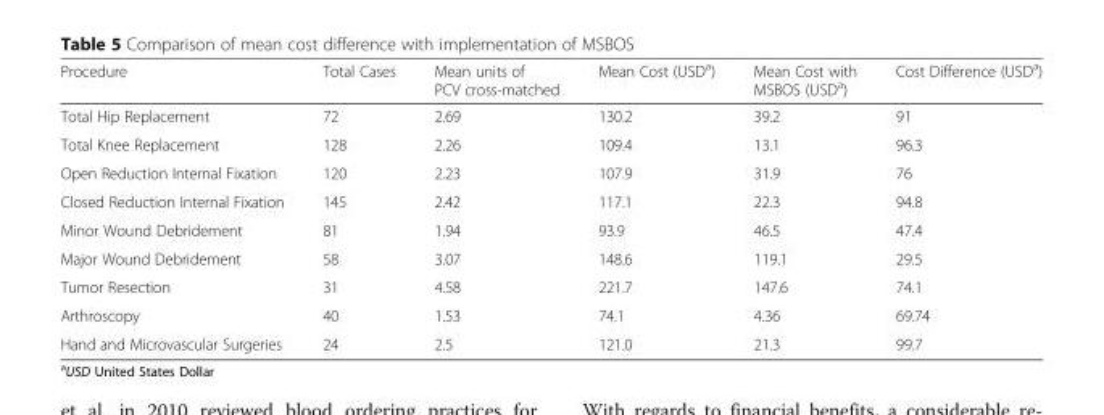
<table><thead><tr><td>Procedure</td><td>Total Cases</td><td>Mean units of PCV cross-matched</td><td>Mean Cost (USD<sup>a</sup>)</td><td>Mean Cost with MSBOS (USD<sup>a</sup>)</td><td>Cost Difference (USD<sup>a</sup>)</td></tr></thead><tbody><tr><td>Total Hip Replacement</td><td>72</td><td>2.69</td><td>130.2</td><td>39.2</td><td>91</td></tr><tr><td>Total Knee Replacement</td><td>128</td><td>2.26</td><td>109.4</td><td>13.1</td><td>96.3</td></tr><tr><td>Open Reduction Internal Fixation</td><td>120</td><td>2.23</td><td>107.9</td><td>31.9</td><td>76</td></tr><tr><td>Closed Reduction Internal Fixation</td><td>145</td><td>2.42</td><td>117.1</td><td>22.3</td><td>94.8</td></tr><tr><td>Minor Wound Debridement</td><td>81</td><td>1.94</td><td>93.9</td><td>46.5</td><td>47.4</td></tr><tr><td>Major Wound Debridement</td><td>58</td><td>3.07</td><td>148.6</td><td>119.1</td><td>29.5</td></tr><tr><td>Tumor Resection</td><td>31</td><td>4.58</td><td>221.7</td><td>147.6</td><td>74.1</td></tr><tr><td>Arthroscopy</td><td>40</td><td>1.53</td><td>74.1</td><td>4.36</td><td>69.74</td></tr><tr><td>Hand and Microvascular Surgeries</td><td>24</td><td>2.5</td><td>121.0</td><td>21.3</td><td>99.7</td></tr></tbody></table>